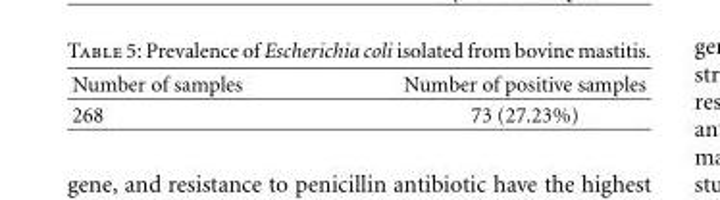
<table><thead><tr><td>Number of samples</td><td>Number of positive samples</td></tr></thead><tbody><tr><td>268</td><td>73 (27.23%)</td></tr></tbody></table>